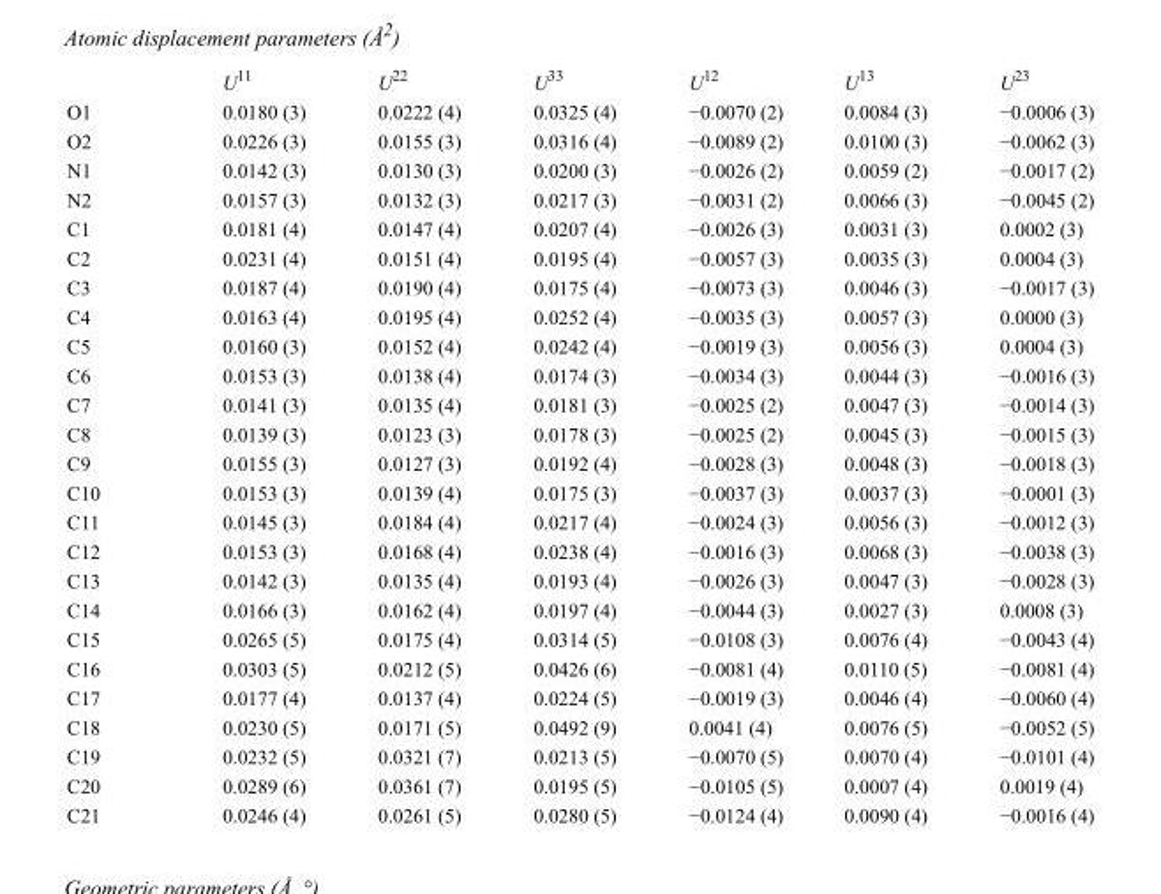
<table><thead><tr><td></td><td>U<sup>11</sup></td><td>U<sup>22</sup></td><td>U<sup>33</sup></td><td>U<sup>12</sup></td><td>U<sup>13</sup></td><td>U<sup>23</sup></td></tr></thead><tbody><tr><td>O1</td><td>0.0180 (3)</td><td>0.0222 (4)</td><td>0.0325 (4)</td><td>−0.0070 (2)</td><td>0.0084 (3)</td><td>−0.0006 (3)</td></tr><tr><td>O2</td><td>0.0226 (3)</td><td>0.0155 (3)</td><td>0.0316 (4)</td><td>−0.0089 (2)</td><td>0.0100 (3)</td><td>−0.0062 (3)</td></tr><tr><td>N1</td><td>0.0142 (3)</td><td>0.0130 (3)</td><td>0.0200 (3)</td><td>−0.0026 (2)</td><td>0.0059 (2)</td><td>−0.0017 (2)</td></tr><tr><td>N2</td><td>0.0157 (3)</td><td>0.0132 (3)</td><td>0.0217 (3)</td><td>−0.0031 (2)</td><td>0.0066 (3)</td><td>−0.0045 (2)</td></tr><tr><td>C1</td><td>0.0181 (4)</td><td>0.0147 (4)</td><td>0.0207 (4)</td><td>−0.0026 (3)</td><td>0.0031 (3)</td><td>0.0002 (3)</td></tr><tr><td>C2</td><td>0.0231 (4)</td><td>0.0151 (4)</td><td>0.0195 (4)</td><td>−0.0057 (3)</td><td>0.0035 (3)</td><td>0.0004 (3)</td></tr><tr><td>C3</td><td>0.0187 (4)</td><td>0.0190 (4)</td><td>0.0175 (4)</td><td>−0.0073 (3)</td><td>0.0046 (3)</td><td>−0.0017 (3)</td></tr><tr><td>C4</td><td>0.0163 (4)</td><td>0.0195 (4)</td><td>0.0252 (4)</td><td>−0.0035 (3)</td><td>0.0057 (3)</td><td>0.0000 (3)</td></tr><tr><td>C5</td><td>0.0160 (3)</td><td>0.0152 (4)</td><td>0.0242 (4)</td><td>−0.0019 (3)</td><td>0.0056 (3)</td><td>0.0004 (3)</td></tr><tr><td>C6</td><td>0.0153 (3)</td><td>0.0138 (4)</td><td>0.0174 (3)</td><td>−0.0034 (3)</td><td>0.0044 (3)</td><td>−0.0016 (3)</td></tr><tr><td>C7</td><td>0.0141 (3)</td><td>0.0135 (4)</td><td>0.0181 (3)</td><td>−0.0025 (2)</td><td>0.0047 (3)</td><td>−0.0014 (3)</td></tr><tr><td>C8</td><td>0.0139 (3)</td><td>0.0123 (3)</td><td>0.0178 (3)</td><td>−0.0025 (2)</td><td>0.0045 (3)</td><td>−0.0015 (3)</td></tr><tr><td>C9</td><td>0.0155 (3)</td><td>0.0127 (3)</td><td>0.0192 (4)</td><td>−0.0028 (3)</td><td>0.0048 (3)</td><td>−0.0018 (3)</td></tr><tr><td>C10</td><td>0.0153 (3)</td><td>0.0139 (4)</td><td>0.0175 (3)</td><td>−0.0037 (3)</td><td>0.0037 (3)</td><td>−0.0001 (3)</td></tr><tr><td>C11</td><td>0.0145 (3)</td><td>0.0184 (4)</td><td>0.0217 (4)</td><td>−0.0024 (3)</td><td>0.0056 (3)</td><td>−0.0012 (3)</td></tr><tr><td>C12</td><td>0.0153 (3)</td><td>0.0168 (4)</td><td>0.0238 (4)</td><td>−0.0016 (3)</td><td>0.0068 (3)</td><td>−0.0038 (3)</td></tr><tr><td>C13</td><td>0.0142 (3)</td><td>0.0135 (4)</td><td>0.0193 (4)</td><td>−0.0026 (3)</td><td>0.0047 (3)</td><td>−0.0028 (3)</td></tr><tr><td>C14</td><td>0.0166 (3)</td><td>0.0162 (4)</td><td>0.0197 (4)</td><td>−0.0044 (3)</td><td>0.0027 (3)</td><td>0.0008 (3)</td></tr><tr><td>C15</td><td>0.0265 (5)</td><td>0.0175 (4)</td><td>0.0314 (5)</td><td>−0.0108 (3)</td><td>0.0076 (4)</td><td>−0.0043 (4)</td></tr><tr><td>C16</td><td>0.0303 (5)</td><td>0.0212 (5)</td><td>0.0426 (6)</td><td>−0.0081 (4)</td><td>0.0110 (5)</td><td>−0.0081 (4)</td></tr><tr><td>C17</td><td>0.0177 (4)</td><td>0.0137 (4)</td><td>0.0224 (5)</td><td>−0.0019 (3)</td><td>0.0046 (4)</td><td>−0.0060 (4)</td></tr><tr><td>C18</td><td>0.0230 (5)</td><td>0.0171 (5)</td><td>0.0492 (9)</td><td>0.0041 (4)</td><td>0.0076 (5)</td><td>−0.0052 (5)</td></tr><tr><td>C19</td><td>0.0232 (5)</td><td>0.0321 (7)</td><td>0.0213 (5)</td><td>−0.0070 (5)</td><td>0.0070 (4)</td><td>−0.0101 (4)</td></tr><tr><td>C20</td><td>0.0289 (6)</td><td>0.0361 (7)</td><td>0.0195 (5)</td><td>−0.0105 (5)</td><td>0.0007 (4)</td><td>0.0019 (4)</td></tr><tr><td>C21</td><td>0.0246 (4)</td><td>0.0261 (5)</td><td>0.0280 (5)</td><td>−0.0124 (4)</td><td>0.0090 (4)</td><td>−0.0016 (4)</td></tr></tbody></table>